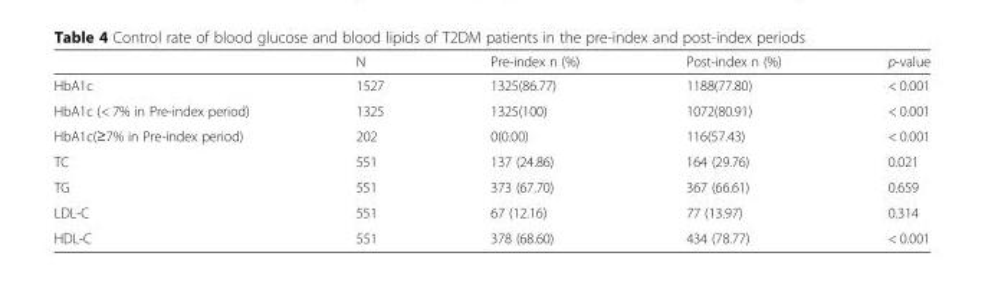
<table><thead><tr><td></td><td>N</td><td>Pre-index n (%)</td><td>Post-index n (%)</td><td>p-value</td></tr></thead><tbody><tr><td>HbA1c</td><td>1527</td><td>1325(86.77)</td><td>1188(77.80)</td><td>&lt; 0.001</td></tr><tr><td>HbA1c (&lt; 7% in Pre-index period)</td><td>1325</td><td>1325(100)</td><td>1072(80.91)</td><td>&lt; 0.001</td></tr><tr><td>HbA1c(≥7% in Pre-index period)</td><td>202</td><td>0(0.00)</td><td>116(57.43)</td><td>&lt; 0.001</td></tr><tr><td>TC</td><td>551</td><td>137 (24.86)</td><td>164 (29.76)</td><td>0.021</td></tr><tr><td>TG</td><td>551</td><td>373 (67.70)</td><td>367 (66.61)</td><td>0.659</td></tr><tr><td>LDL-C</td><td>551</td><td>67 (12.16)</td><td>77 (13.97)</td><td>0.314</td></tr><tr><td>HDL-C</td><td>551</td><td>378 (68.60)</td><td>434 (78.77)</td><td>&lt; 0.001</td></tr></tbody></table>